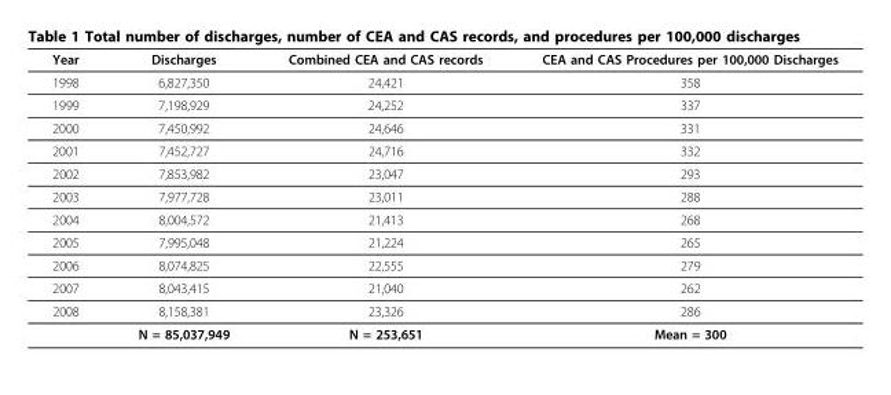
<table><thead><tr><td>Year</td><td>Discharges</td><td>Combined CEA and CAS records</td><td>CEA and CAS Procedures per 100,000 Discharges</td></tr></thead><tbody><tr><td>1998</td><td>6,827,350</td><td>24,421</td><td>358</td></tr><tr><td>1999</td><td>7,198,929</td><td>24,252</td><td>337</td></tr><tr><td>2000</td><td>7,450,992</td><td>24,646</td><td>331</td></tr><tr><td>2001</td><td>7,452,727</td><td>24,716</td><td>332</td></tr><tr><td>2002</td><td>7,853,982</td><td>23,047</td><td>293</td></tr><tr><td>2003</td><td>7,977,728</td><td>23,011</td><td>288</td></tr><tr><td>2004</td><td>8,004,572</td><td>21,413</td><td>268</td></tr><tr><td>2005</td><td>7,995,048</td><td>21,224</td><td>265</td></tr><tr><td>2006</td><td>8,074,825</td><td>22,555</td><td>279</td></tr><tr><td>2007</td><td>8,043,415</td><td>21,040</td><td>262</td></tr><tr><td rowspan="2">2008</td><td>8,158,381</td><td>23,326</td><td>286</td></tr><tr><td>N = 85,037,949</td><td>N = 253,651</td><td>Mean = 300</td></tr></tbody></table>